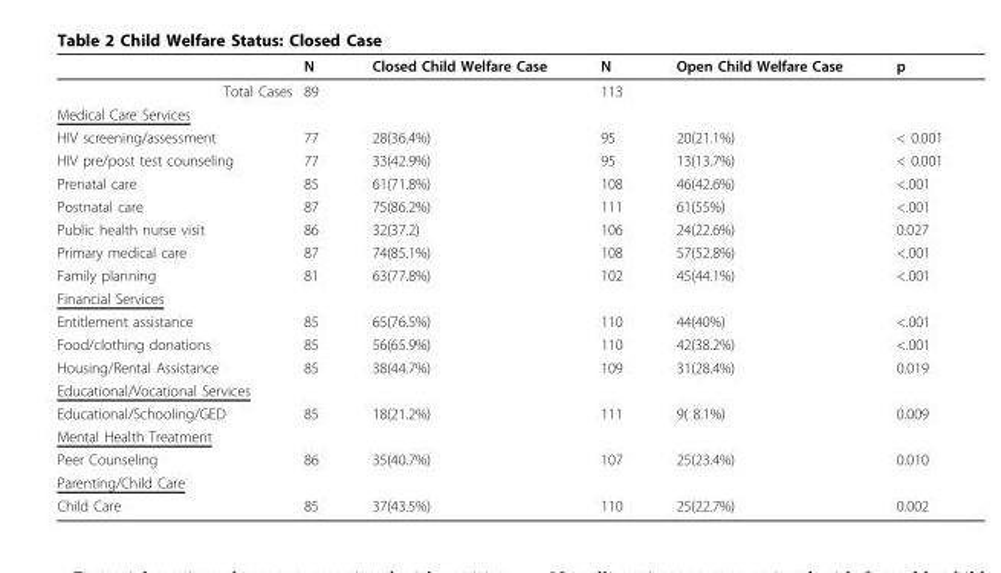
<table><thead><tr><td></td><td>N</td><td>Closed Child Welfare Case</td><td>N</td><td>Open Child Welfare Case</td><td>p</td></tr></thead><tbody><tr><td>Total Cases</td><td>89</td><td></td><td>113</td><td></td><td></td></tr><tr><td colspan="6">Medical Care Services</td></tr><tr><td>HIV screening/assessment</td><td>77</td><td>28(36.4%)</td><td>95</td><td>20(21.1%)</td><td>&lt; 0.001</td></tr><tr><td>HIV pre/post test counseling</td><td>77</td><td>33(42.9%)</td><td>95</td><td>13(13.7%)</td><td>&lt; 0.001</td></tr><tr><td>Prenatal care</td><td>85</td><td>61(71.8%)</td><td>108</td><td>46(42.6%)</td><td>&lt;.001</td></tr><tr><td>Postnatal care</td><td>87</td><td>75(86.2%)</td><td>111</td><td>61(55%)</td><td>&lt;.001</td></tr><tr><td>Public health nurse visit</td><td>86</td><td>32(37.2)</td><td>106</td><td>24(22.6%)</td><td>0.027</td></tr><tr><td>Primary medical care</td><td>87</td><td>74(85.1%)</td><td>108</td><td>57(52.8%)</td><td>&lt;.001</td></tr><tr><td>Family planning</td><td>81</td><td>63(77.8%)</td><td>102</td><td>45(44.1%)</td><td>&lt;.001</td></tr><tr><td colspan="6">Financial Services</td></tr><tr><td>Entitlement assistance</td><td>85</td><td>65(76.5%)</td><td>110</td><td>44(40%)</td><td>&lt;.001</td></tr><tr><td>Food/clothing donations</td><td>85</td><td>56(65.9%)</td><td>110</td><td>42(38.2%)</td><td>&lt;.001</td></tr><tr><td>Housing/Rental Assistance</td><td>85</td><td>38(44.7%)</td><td>109</td><td>31(28.4%)</td><td>0.019</td></tr><tr><td colspan="6">Educational/Vocational Services</td></tr><tr><td>Educational/Schooling/GED</td><td>85</td><td>18(21.2%)</td><td>111</td><td>9( 8.1%)</td><td>0.009</td></tr><tr><td colspan="6">Mental Health Treatment</td></tr><tr><td>Peer Counseling</td><td>86</td><td>35(40.7%)</td><td>107</td><td>25(23.4%)</td><td>0.010</td></tr><tr><td colspan="6">Parenting/Child Care</td></tr><tr><td>Child Care</td><td>85</td><td>37(43.5%)</td><td>110</td><td>25(22.7%)</td><td>0.002</td></tr></tbody></table>